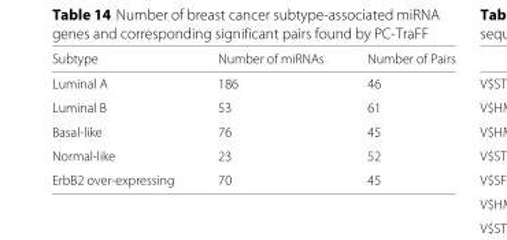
<table><thead><tr><td>Subtype</td><td>Number of miRNAs</td><td>Number of Pairs</td></tr></thead><tbody><tr><td>Luminal A</td><td>186</td><td>46</td></tr><tr><td>Luminal B</td><td>53</td><td>61</td></tr><tr><td>Basal-like</td><td>76</td><td>45</td></tr><tr><td>Normal-like</td><td>23</td><td>52</td></tr><tr><td>ErbB2 over-expressing</td><td>70</td><td>45</td></tr></tbody></table>